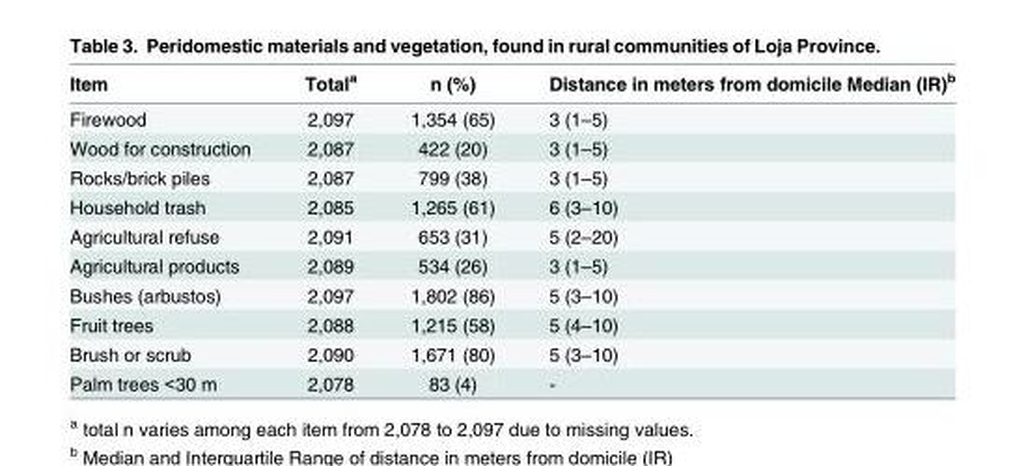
<table><thead><tr><td>Item</td><td>Total<sup>a</sup></td><td>n (%)</td><td>Distance in meters from domicile Median (IR)<sup>b</sup></td></tr></thead><tbody><tr><td>Firewood</td><td>2,097</td><td>1,354 (65)</td><td>3 (1–5)</td></tr><tr><td>Wood for construction</td><td>2,087</td><td>422 (20)</td><td>3 (1–5)</td></tr><tr><td>Rocks/brick piles</td><td>2,087</td><td>799 (38)</td><td>3 (1–5)</td></tr><tr><td>Household trash</td><td>2,085</td><td>1,265 (61)</td><td>6 (3–10)</td></tr><tr><td>Agricultural refuse</td><td>2,091</td><td>653 (31)</td><td>5 (2–20)</td></tr><tr><td>Agricultural products</td><td>2,089</td><td>534 (26)</td><td>3 (1–5)</td></tr><tr><td>Bushes (arbustos)</td><td>2,097</td><td>1,802 (86)</td><td>5 (3–10)</td></tr><tr><td>Fruit trees</td><td>2,088</td><td>1,215 (58)</td><td>5 (4–10)</td></tr><tr><td>Brush or scrub</td><td>2,090</td><td>1,671 (80)</td><td>5 (3–10)</td></tr><tr><td>Palm trees &lt;30 m</td><td>2,078</td><td>83 (4)</td><td>-</td></tr></tbody></table>